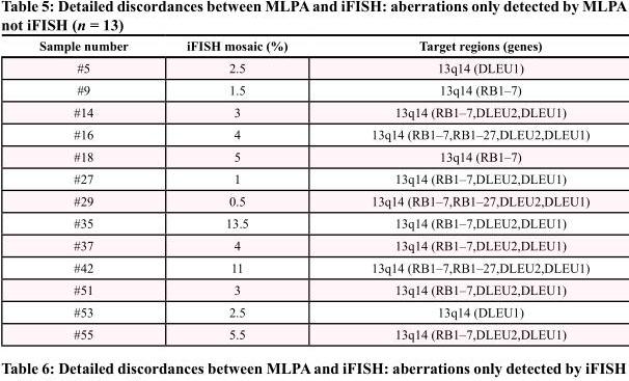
<table><thead><tr><td>Sample number</td><td>iFISH mosaic (%)</td><td>Target regions (genes)</td></tr></thead><tbody><tr><td>#5</td><td>2.5</td><td>13q14 (DLEU1)</td></tr><tr><td>#9</td><td>1.5</td><td>13q14 (RB1–7)</td></tr><tr><td>#14</td><td>3</td><td>13q14 (RB1–7,DLEU2,DLEU1)</td></tr><tr><td>#16</td><td>4</td><td>13q14 (RB1–7,RB1–27,DLEU2,DLEU1)</td></tr><tr><td>#18</td><td>5</td><td>13q14 (RB1–7)</td></tr><tr><td>#27</td><td>1</td><td>13q14 (RB1–7,DLEU2,DLEU1)</td></tr><tr><td>#29</td><td>0.5</td><td>13q14 (RB1–7,RB1–27,DLEU2,DLEU1)</td></tr><tr><td>#35</td><td>13.5</td><td>13q14 (RB1–7,DLEU2,DLEU1)</td></tr><tr><td>#37</td><td>4</td><td>13q14 (RB1–7,DLEU2,DLEU1)</td></tr><tr><td>#42</td><td>11</td><td>13q14 (RB1–7,RB1–27,DLEU2,DLEU1)</td></tr><tr><td>#51</td><td>3</td><td>13q14 (RB1–7,DLEU2,DLEU1)</td></tr><tr><td>#53</td><td>2.5</td><td>13q14 (DLEU1)</td></tr><tr><td>#55</td><td>5.5</td><td>13q14 (RB1–7,DLEU2,DLEU1)</td></tr></tbody></table>